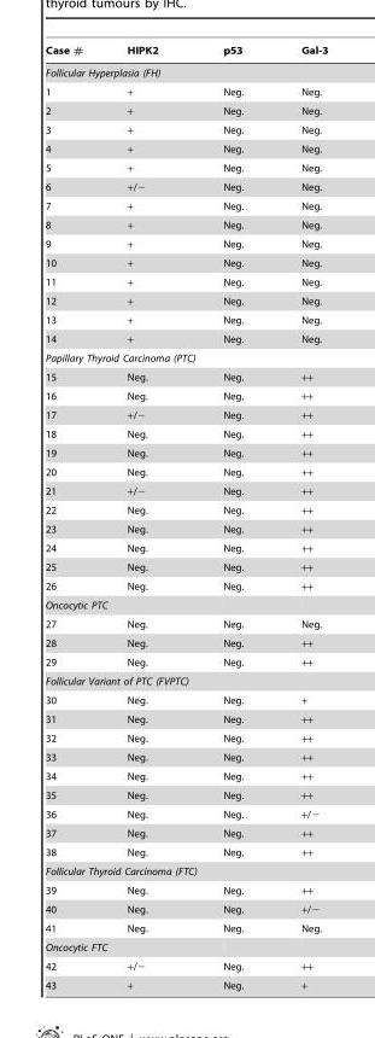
<table><thead><tr><td>Case #</td><td>HIPK2</td><td>p53</td><td>Gal-3</td></tr></thead><tbody><tr><td colspan="4">Follicular Hyperplasia (FH)</td></tr><tr><td>1</td><td>+</td><td>Neg.</td><td>Neg.</td></tr><tr><td>2</td><td>+</td><td>Neg.</td><td>Neg.</td></tr><tr><td>3</td><td>+</td><td>Neg.</td><td>Neg.</td></tr><tr><td>4</td><td>+</td><td>Neg.</td><td>Neg.</td></tr><tr><td>5</td><td>+</td><td>Neg.</td><td>Neg.</td></tr><tr><td>6</td><td>+/−</td><td>Neg.</td><td>Neg.</td></tr><tr><td>7</td><td>+</td><td>Neg.</td><td>Neg.</td></tr><tr><td>8</td><td>+</td><td>Neg.</td><td>Neg.</td></tr><tr><td>9</td><td>+</td><td>Neg.</td><td>Neg.</td></tr><tr><td>10</td><td>+</td><td>Neg.</td><td>Neg.</td></tr><tr><td>11</td><td>+</td><td>Neg.</td><td>Neg.</td></tr><tr><td>12</td><td>+</td><td>Neg.</td><td>Neg.</td></tr><tr><td>13</td><td>+</td><td>Neg.</td><td>Neg.</td></tr><tr><td>14</td><td>+</td><td>Neg.</td><td>Neg.</td></tr><tr><td colspan="4">Papillary Thyroid Carcinoma (PTC)</td></tr><tr><td>15</td><td>Neg.</td><td>Neg.</td><td>++</td></tr><tr><td>16</td><td>Neg.</td><td>Neg.</td><td>++</td></tr><tr><td>17</td><td>+/−</td><td>Neg.</td><td>++</td></tr><tr><td>18</td><td>Neg.</td><td>Neg.</td><td>++</td></tr><tr><td>19</td><td>Neg.</td><td>Neg.</td><td>++</td></tr><tr><td>20</td><td>Neg.</td><td>Neg.</td><td>++</td></tr><tr><td>21</td><td>+/−</td><td>Neg.</td><td>++</td></tr><tr><td>22</td><td>Neg.</td><td>Neg.</td><td>++</td></tr><tr><td>23</td><td>Neg.</td><td>Neg.</td><td>++</td></tr><tr><td>24</td><td>Neg.</td><td>Neg.</td><td>++</td></tr><tr><td>25</td><td>Neg.</td><td>Neg.</td><td>++</td></tr><tr><td>26</td><td>Neg.</td><td>Neg.</td><td>++</td></tr><tr><td colspan="4">Oncocytic PTC</td></tr><tr><td>27</td><td>Neg.</td><td>Neg.</td><td>Neg.</td></tr><tr><td>28</td><td>Neg.</td><td>Neg.</td><td>++</td></tr><tr><td>29</td><td>Neg.</td><td>Neg.</td><td>++</td></tr><tr><td colspan="4">Follicular Variant of PTC (FVPTC)</td></tr><tr><td>30</td><td>Neg.</td><td>Neg.</td><td>+</td></tr><tr><td>31</td><td>Neg.</td><td>Neg.</td><td>++</td></tr><tr><td>32</td><td>Neg.</td><td>Neg.</td><td>++</td></tr><tr><td>33</td><td>Neg.</td><td>Neg.</td><td>++</td></tr><tr><td>34</td><td>Neg.</td><td>Neg.</td><td>++</td></tr><tr><td>35</td><td>Neg.</td><td>Neg.</td><td>++</td></tr><tr><td>36</td><td>Neg.</td><td>Neg.</td><td>+/−</td></tr><tr><td>37</td><td>Neg.</td><td>Neg.</td><td>++</td></tr><tr><td>38</td><td>Neg.</td><td>Neg.</td><td>++</td></tr><tr><td colspan="4">Follicular Thyroid Carcinoma (FTC)</td></tr><tr><td>39</td><td>Neg.</td><td>Neg.</td><td>++</td></tr><tr><td>40</td><td>Neg.</td><td>Neg.</td><td>+/−</td></tr><tr><td>41</td><td>Neg.</td><td>Neg.</td><td>Neg.</td></tr><tr><td colspan="4">Oncocytic FTC</td></tr><tr><td>42</td><td>+/−</td><td>Neg.</td><td>++</td></tr><tr><td>43</td><td>+</td><td>Neg.</td><td>+</td></tr></tbody></table>